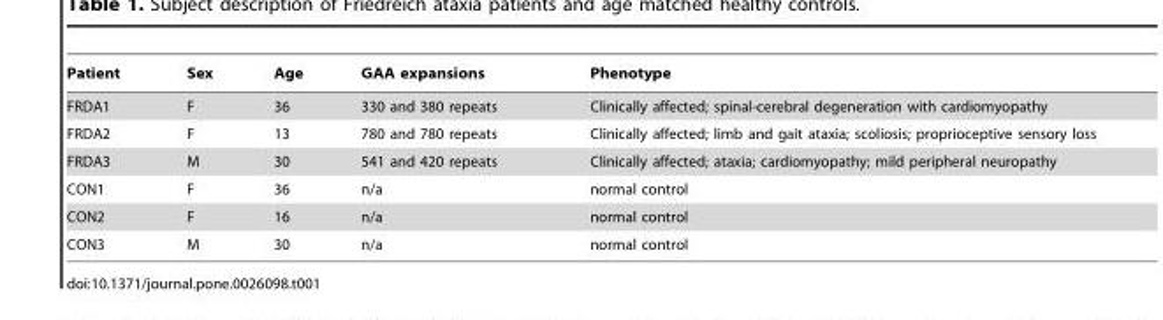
<table><thead><tr><td>Patient</td><td>Sex</td><td>Age</td><td>GAA expansions</td><td>Phenotype</td></tr></thead><tbody><tr><td>FRDA1</td><td>F</td><td>36</td><td>330 and 380 repeats</td><td>Clinically affected; spinal-cerebral degeneration with cardiomyopathy</td></tr><tr><td>FRDA2</td><td>F</td><td>13</td><td>780 and 780 repeats</td><td>Clinically affected; limb and gait ataxia; scoliosis; proprioceptive sensory loss</td></tr><tr><td>FRDA3</td><td>M</td><td>30</td><td>541 and 420 repeats</td><td>Clinically affected; ataxia; cardiomyopathy; mild peripheral neuropathy</td></tr><tr><td>CON1</td><td>F</td><td>36</td><td>n/a</td><td>normal control</td></tr><tr><td>CON2</td><td>F</td><td>16</td><td>n/a</td><td>normal control</td></tr><tr><td>CON3</td><td>M</td><td>30</td><td>n/a</td><td>normal control</td></tr></tbody></table>